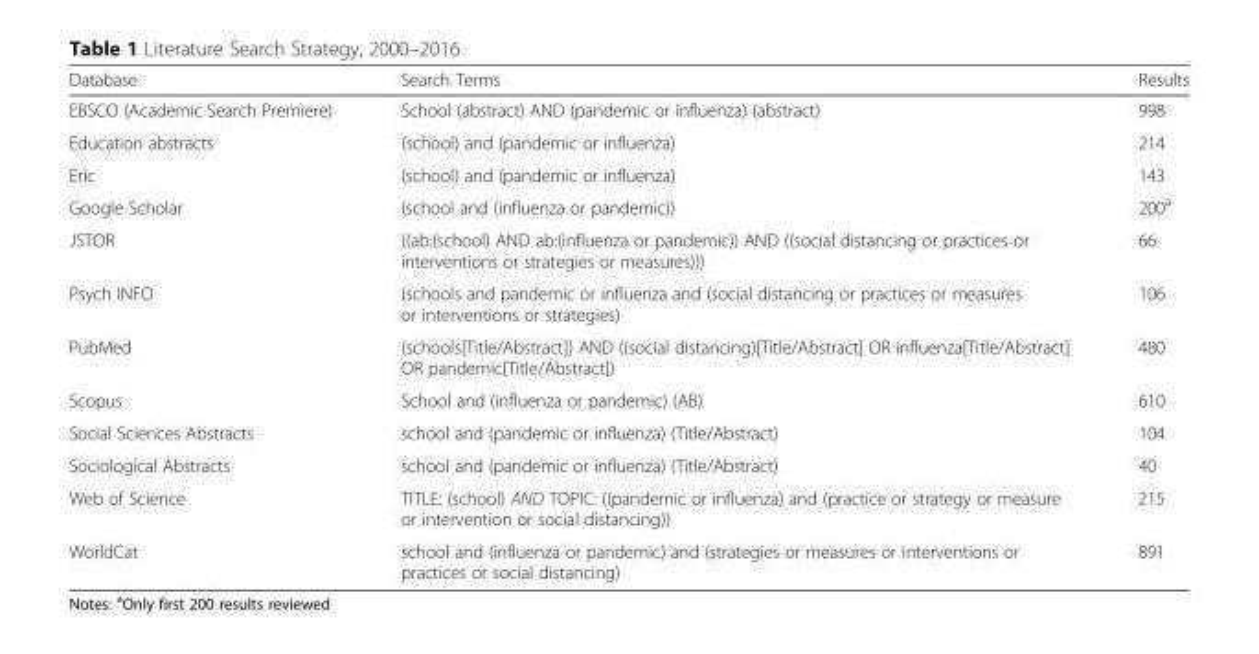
<table><thead><tr><td>Database</td><td>Search Terms</td><td>Results</td></tr></thead><tbody><tr><td>EBSCO (Academic Search Premiere)</td><td>School (abstract) AND (pandemic or influenza) (abstract)</td><td>998</td></tr><tr><td>Education abstracts</td><td>(school) and (pandemic or influenza)</td><td>214</td></tr><tr><td>Eric</td><td>(school) and (pandemic or influenza)</td><td>143</td></tr><tr><td>Google Scholar</td><td>(school and (influenza or pandemic))</td><td>200<sup>a</sup></td></tr><tr><td>JSTOR</td><td>((ab:(school) AND ab:(influenza or pandemic)) AND ((social distancing or practices or interventions or strategies or measures)))</td><td>66</td></tr><tr><td>Psych INFO</td><td>(schools and pandemic or influenza and (social distancing or practices or measures or interventions or strategies)</td><td>106</td></tr><tr><td>PubMed</td><td>(schools[Title/Abstract]) AND ((social distancing)[Title/Abstract] OR influenza[Title/Abstract] OR pandemic[Title/Abstract])</td><td>480</td></tr><tr><td>Scopus</td><td>School and (influenza or pandemic) (AB)</td><td>610</td></tr><tr><td>Social Sciences Abstracts</td><td>school and (pandemic or influenza) (Title/Abstract)</td><td>104</td></tr><tr><td>Sociological Abstracts</td><td>school and (pandemic or influenza) (Title/Abstract)</td><td>40</td></tr><tr><td>Web of Science</td><td>TITLE: (school) AND TOPIC: ((pandemic or influenza) and (practice or strategy or measure or intervention or social distancing))</td><td>215</td></tr><tr><td>WorldCat</td><td>school and (influenza or pandemic) and (strategies or measures or interventions or practices or social distancing)</td><td>891</td></tr></tbody></table>